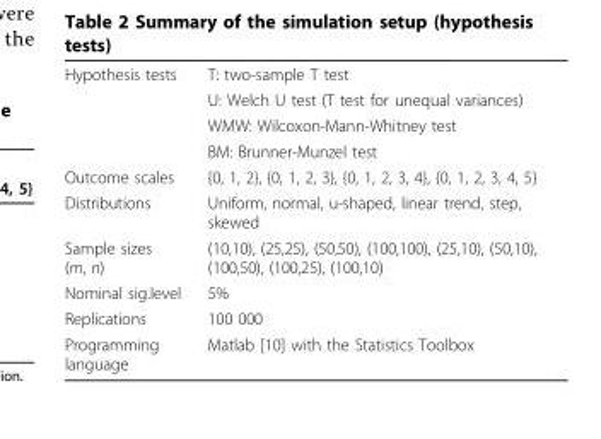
<table><tbody><tr><td rowspan="4">Hypothesis tests</td><td>T: two-sample T test</td></tr><tr><td>U: Welch U test (T test for unequal variances)</td></tr><tr><td>WMW: Wilcoxon-Mann-Whitney test</td></tr><tr><td>BM: Brunner-Munzel test</td></tr><tr><td>Outcome scales</td><td>{0, 1, 2}, {0, 1, 2, 3}, {0, 1, 2, 3, 4}, {0, 1, 2, 3, 4, 5}</td></tr><tr><td>Distributions</td><td>Uniform, normal, u-shaped, linear trend, step, skewed</td></tr><tr><td>Sample sizes (m, n)</td><td>(10,10), (25,25), (50,50), (100,100), (25,10), (50,10), (100,50), (100,25), (100,10)</td></tr><tr><td>Nominal sig.level</td><td>5%</td></tr><tr><td>Replications</td><td>100 000</td></tr><tr><td>Programming language</td><td>Matlab [10] with the Statistics Toolbox</td></tr></tbody></table>